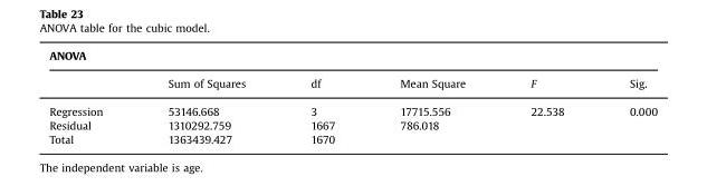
<table><thead><tr><td colspan="6">ANOVA</td></tr><tr><td></td><td>Sum of Squares</td><td>df</td><td>Mean Square</td><td>F</td><td>Sig.</td></tr></thead><tbody><tr><td>Regression</td><td>53146.668</td><td>3</td><td>17715.556</td><td>22.538</td><td>0.000</td></tr><tr><td>Residual</td><td>1310292.759</td><td>1667</td><td>786.018</td><td></td><td></td></tr><tr><td>Total</td><td>1363439.427</td><td>1670</td><td></td><td></td><td></td></tr></tbody></table>